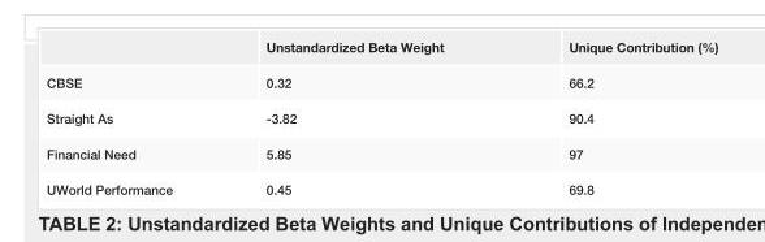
<table><thead><tr><td></td><td>Unstandardized Beta Weight</td><td>Unique Contribution (%)</td></tr></thead><tbody><tr><td>CBSE</td><td>0.32</td><td>66.2</td></tr><tr><td>Straight As</td><td>-3.82</td><td>90.4</td></tr><tr><td>Financial Need</td><td>5.85</td><td>97</td></tr><tr><td>UWorld Performance</td><td>0.45</td><td>69.8</td></tr></tbody></table>